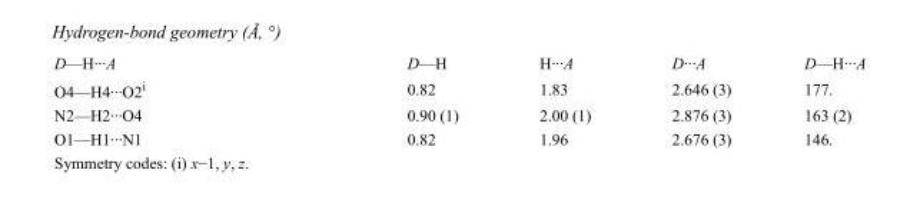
<table><tbody><tr><td>D—H···A</td><td>D—H</td><td>H···A</td><td>D···A</td><td>D—H···A</td></tr><tr><td>O4—H4···O2<sup>i</sup></td><td>0.82</td><td>1.83</td><td>2.646 (3)</td><td>177.</td></tr><tr><td>N2—H2···O4</td><td>0.90 (1)</td><td>2.00 (1)</td><td>2.876 (3)</td><td>163 (2)</td></tr><tr><td>O1—H1···N1</td><td>0.82</td><td>1.96</td><td>2.676 (3)</td><td>146.</td></tr></tbody></table>